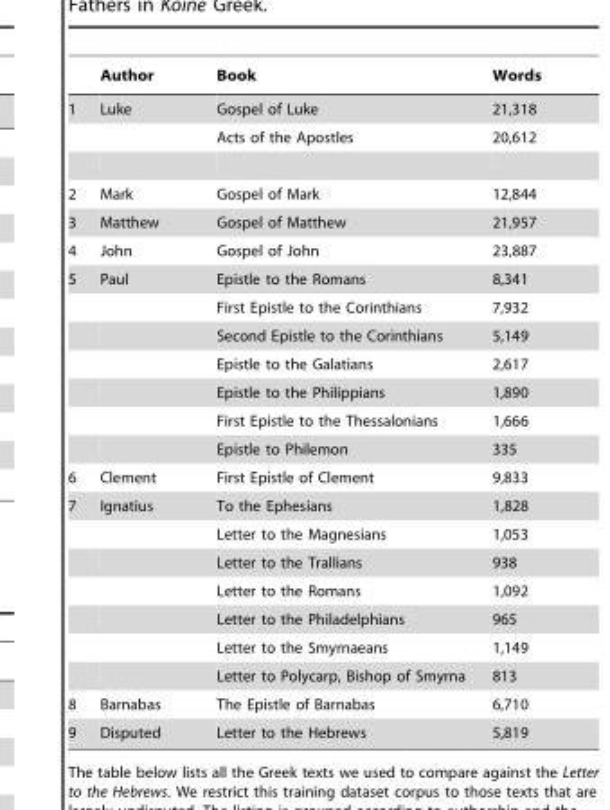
<table><thead><tr><td></td><td>Author</td><td>Book</td><td>Words</td></tr></thead><tbody><tr><td rowspan="2">1</td><td>Luke</td><td>Gospel of Luke</td><td>21,318</td></tr><tr><td></td><td>Acts of the Apostles</td><td>20,612</td></tr><tr><td>2</td><td>Mark</td><td>Gospel of Mark</td><td>12,844</td></tr><tr><td>3</td><td>Matthew</td><td>Gospel of Matthew</td><td>21,957</td></tr><tr><td>4</td><td>John</td><td>Gospel of John</td><td>23,887</td></tr><tr><td rowspan="7">5</td><td>Paul</td><td>Epistle to the Romans</td><td>8,341</td></tr><tr><td></td><td>First Epistle to the Corinthians</td><td>7,932</td></tr><tr><td></td><td>Second Epistle to the Corinthians</td><td>5,149</td></tr><tr><td></td><td>Epistle to the Galatians</td><td>2,617</td></tr><tr><td></td><td>Epistle to the Philippians</td><td>1,890</td></tr><tr><td></td><td>First Epistle to the Thessalonians</td><td>1,666</td></tr><tr><td></td><td>Epistle to Philemon</td><td>335</td></tr><tr><td>6</td><td>Clement</td><td>First Epistle of Clement</td><td>9,833</td></tr><tr><td rowspan="7">7</td><td>Ignatius</td><td>To the Ephesians</td><td>1,828</td></tr><tr><td></td><td>Letter to the Magnesians</td><td>1,053</td></tr><tr><td></td><td>Letter to the Trallians</td><td>938</td></tr><tr><td></td><td>Letter to the Romans</td><td>1,092</td></tr><tr><td></td><td>Letter to the Philadelphians</td><td>965</td></tr><tr><td></td><td>Letter to the Smyrnaeans</td><td>1,149</td></tr><tr><td></td><td>Letter to Polycarp, Bishop of Smyrna</td><td>813</td></tr><tr><td>8</td><td>Barnabas</td><td>The Epistle of Barnabas</td><td>6,710</td></tr><tr><td>9</td><td>Disputed</td><td>Letter to the Hebrews</td><td>5,819</td></tr></tbody></table>